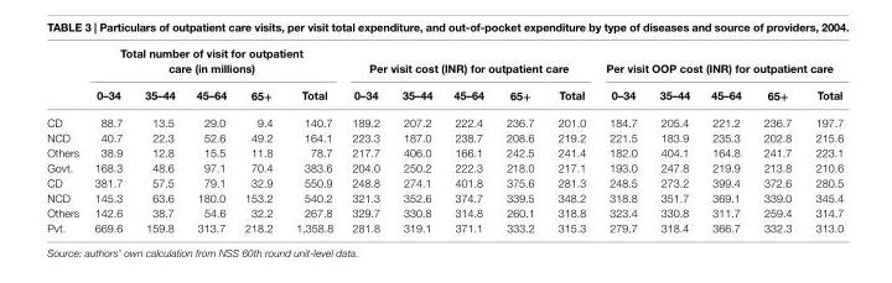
<table><thead><tr><td rowspan="2"></td><td colspan="5">Total number of visit for outpatient care (in millions)</td><td colspan="5">Per visit cost (inr) for outpatient care</td><td colspan="5">Per visit OOP cost (inr) for outpatient care</td></tr><tr><td>0–34</td><td>35–44</td><td>45–64</td><td>65+</td><td>Total</td><td>0–34</td><td>35–44</td><td>45–64</td><td>65+</td><td>Total</td><td>0–34</td><td>35–44</td><td>45–64</td><td>65+</td><td>Total</td></tr></thead><tbody><tr><td>CD</td><td>88.7</td><td>13.5</td><td>29.0</td><td>9.4</td><td>140.7</td><td>189.2</td><td>207.2</td><td>222.4</td><td>236.7</td><td>201.0</td><td>184.7</td><td>205.4</td><td>221.2</td><td>236.7</td><td>197.7</td></tr><tr><td>NCD</td><td>40.7</td><td>22.3</td><td>52.6</td><td>49.2</td><td>164.1</td><td>223.3</td><td>187.0</td><td>238.7</td><td>208.6</td><td>219.2</td><td>221.5</td><td>183.9</td><td>235.3</td><td>202.8</td><td>215.6</td></tr><tr><td>Others</td><td>38.9</td><td>12.8</td><td>15.5</td><td>11.8</td><td>78.7</td><td>217.7</td><td>406.0</td><td>166.1</td><td>242.5</td><td>241.4</td><td>182.0</td><td>404.1</td><td>164.8</td><td>241.7</td><td>223.1</td></tr><tr><td>Govt.</td><td>168.3</td><td>48.6</td><td>97.1</td><td>70.4</td><td>383.6</td><td>204.0</td><td>250.2</td><td>222.3</td><td>218.0</td><td>217.1</td><td>193.0</td><td>247.8</td><td>219.9</td><td>213.8</td><td>210.6</td></tr><tr><td>CD</td><td>381.7</td><td>57.5</td><td>79.1</td><td>32.9</td><td>550.9</td><td>248.8</td><td>274.1</td><td>401.8</td><td>375.6</td><td>281.3</td><td>248.5</td><td>273.2</td><td>399.4</td><td>372.6</td><td>280.5</td></tr><tr><td>NCD</td><td>145.3</td><td>63.6</td><td>180.0</td><td>153.2</td><td>540.2</td><td>321.3</td><td>352.6</td><td>374.7</td><td>339.5</td><td>348.2</td><td>318.8</td><td>351.7</td><td>369.1</td><td>339.0</td><td>345.4</td></tr><tr><td>Others</td><td>142.6</td><td>38.7</td><td>54.6</td><td>32.2</td><td>267.8</td><td>329.7</td><td>330.8</td><td>314.8</td><td>260.1</td><td>318.8</td><td>323.4</td><td>330.8</td><td>311.7</td><td>259.4</td><td>314.7</td></tr><tr><td>Pvt.</td><td>669.6</td><td>159.8</td><td>313.7</td><td>218.2</td><td>1,358.8</td><td>281.8</td><td>319.1</td><td>371.1</td><td>333.2</td><td>315.3</td><td>279.7</td><td>318.4</td><td>366.7</td><td>332.3</td><td>313.0</td></tr></tbody></table>